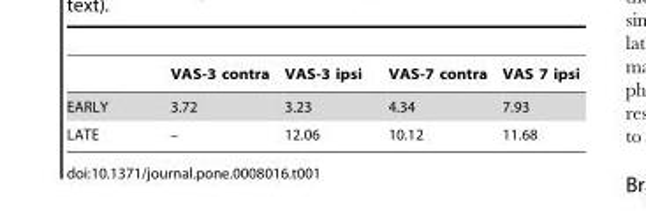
<table><thead><tr><td></td><td>VAS-3 contra</td><td>VAS-3 ipsi</td><td>VAS-7 contra</td><td>VAS 7 ipsi</td></tr></thead><tbody><tr><td>EARLY</td><td>3.72</td><td>3.23</td><td>4.34</td><td>7.93</td></tr><tr><td>LATE</td><td>–</td><td>12.06</td><td>10.12</td><td>11.68</td></tr></tbody></table>